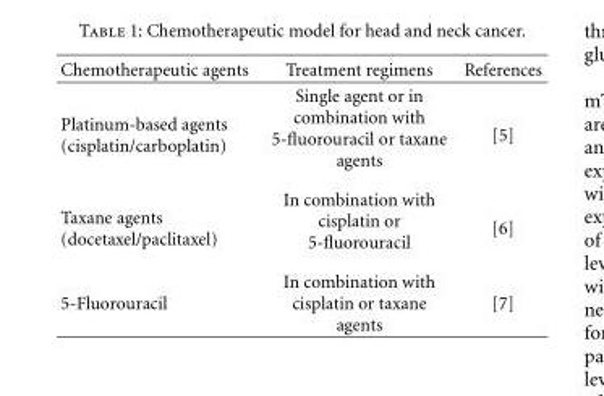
<table><thead><tr><td>Chemotherapeutic agents</td><td>Treatment regimens</td><td>References</td></tr></thead><tbody><tr><td>Platinum-based agents (cisplatin/carboplatin)</td><td>Single agent or in combination with 5-fluorouracil or taxane agents</td><td>[5]</td></tr><tr><td>Taxane agents (docetaxel/paclitaxel)</td><td>In combination with cisplatin or 5-fluorouracil</td><td>[6]</td></tr><tr><td>5-Fluorouracil</td><td>In combination with cisplatin or taxane agents</td><td>[7]</td></tr></tbody></table>